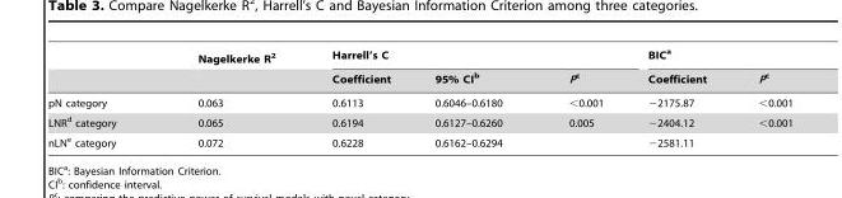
<table><thead><tr><td rowspan="2"></td><td rowspan="2">Nagelkerke R<sup>2</sup></td><td colspan="3">Harrell’s C</td><td colspan="2">BIC<sup>a</sup></td></tr><tr><td>Coefficient</td><td>95% CI<sup>b</sup></td><td>P<sup>c</sup></td><td>Coefficient</td><td>P<sup>c</sup></td></tr></thead><tbody><tr><td>pN category</td><td>0.063</td><td>0.6113</td><td>0.6046–0.6180</td><td>&lt;0.001</td><td>−2175.87</td><td>&lt;0.001</td></tr><tr><td>LNR<sup>d</sup> category</td><td>0.065</td><td>0.6194</td><td>0.6127–0.6260</td><td>0.005</td><td>−2404.12</td><td>&lt;0.001</td></tr><tr><td>nLN<sup>e</sup> category</td><td>0.072</td><td>0.6228</td><td>0.6162–0.6294</td><td></td><td>−2581.11</td><td></td></tr></tbody></table>